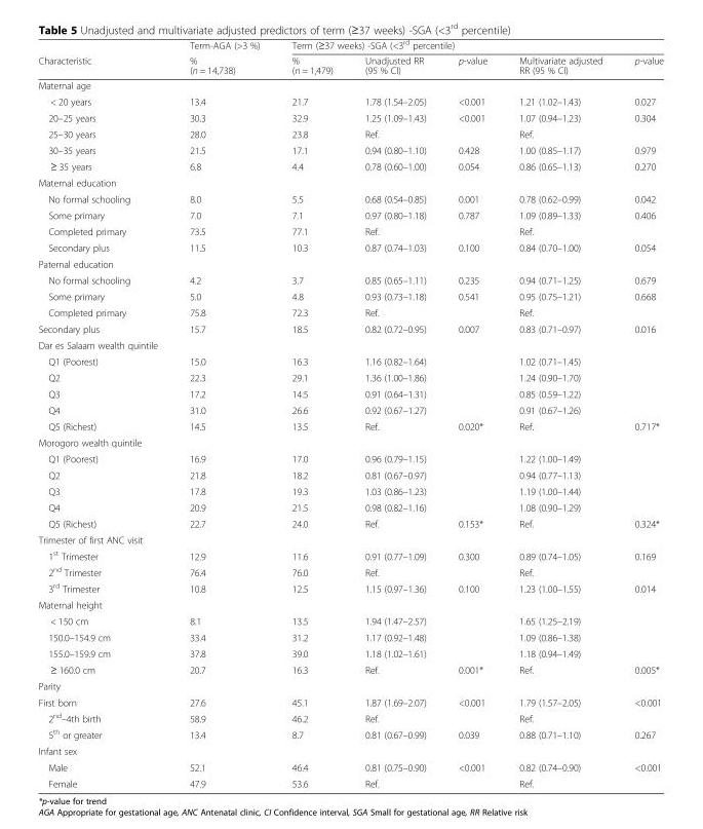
<table><thead><tr><td rowspan="2">Characteristic</td><td rowspan="2">Term-AGA (&gt;3 %) % (n = 14,738)</td><td colspan="5">Term (≥37 weeks) -SGA (&lt;3<sup>rd</sup> percentile)</td></tr><tr><td>% (n = 1,479)</td><td>Unadjusted RR (95 % CI)</td><td>p-value</td><td>Multivariate adjusted RR (95 % CI)</td><td>p-value</td></tr></thead><tbody><tr><td colspan="7">Maternal age</td></tr><tr><td>&lt; 20 years</td><td>13.4</td><td>21.7</td><td>1.78 (1.54–2.05)</td><td>&lt;0.001</td><td>1.21 (1.02–1.43)</td><td>0.027</td></tr><tr><td>20–25 years</td><td>30.3</td><td>32.9</td><td>1.25 (1.09–1.43)</td><td>&lt;0.001</td><td>1.07 (0.94–1.23)</td><td>0.304</td></tr><tr><td>25–30 years</td><td>28.0</td><td>23.8</td><td>Ref.</td><td></td><td>Ref.</td><td></td></tr><tr><td>30–35 years</td><td>21.5</td><td>17.1</td><td>0.94 (0.80–1.10)</td><td>0.428</td><td>1.00 (0.85–1.17)</td><td>0.979</td></tr><tr><td>≥ 35 years</td><td>6.8</td><td>4.4</td><td>0.78 (0.60–1.00)</td><td>0.054</td><td>0.86 (0.65–1.13)</td><td>0.270</td></tr><tr><td colspan="7">Maternal education</td></tr><tr><td>No formal schooling</td><td>8.0</td><td>5.5</td><td>0.68 (0.54–0.85)</td><td>0.001</td><td>0.78 (0.62–0.99)</td><td>0.042</td></tr><tr><td>Some primary</td><td>7.0</td><td>7.1</td><td>0.97 (0.80–1.18)</td><td>0.787</td><td>1.09 (0.89–1.33)</td><td>0.406</td></tr><tr><td>Completed primary</td><td>73.5</td><td>77.1</td><td>Ref.</td><td></td><td>Ref.</td><td></td></tr><tr><td>Secondary plus</td><td>11.5</td><td>10.3</td><td>0.87 (0.74–1.03)</td><td>0.100</td><td>0.84 (0.70–1.00)</td><td>0.054</td></tr><tr><td colspan="7">Paternal education</td></tr><tr><td>No formal schooling</td><td>4.2</td><td>3.7</td><td>0.85 (0.65–1.11)</td><td>0.235</td><td>0.94 (0.71–1.25)</td><td>0.679</td></tr><tr><td>Some primary</td><td>5.0</td><td>4.8</td><td>0.93 (0.73–1.18)</td><td>0.541</td><td>0.95 (0.75–1.21)</td><td>0.668</td></tr><tr><td>Completed primary</td><td>75.8</td><td>72.3</td><td>Ref.</td><td></td><td>Ref.</td><td></td></tr><tr><td>Secondary plus</td><td>15.7</td><td>18.5</td><td>0.82 (0.72–0.95)</td><td>0.007</td><td>0.83 (0.71–0.97)</td><td>0.016</td></tr><tr><td colspan="7">Dar es Salaam wealth quintile</td></tr><tr><td>Q1 (Poorest)</td><td>15.0</td><td>16.3</td><td>1.16 (0.82–1.64)</td><td></td><td>1.02 (0.71–1.45)</td><td></td></tr><tr><td>Q2</td><td>22.3</td><td>29.1</td><td>1.36 (1.00–1.86)</td><td></td><td>1.24 (0.90–1.70)</td><td></td></tr><tr><td>Q3</td><td>17.2</td><td>14.5</td><td>0.91 (0.64–1.31)</td><td></td><td>0.85 (0.59–1.22)</td><td></td></tr><tr><td>Q4</td><td>31.0</td><td>26.6</td><td>0.92 (0.67–1.27)</td><td></td><td>0.91 (0.67–1.26)</td><td></td></tr><tr><td>Q5 (Richest)</td><td>14.5</td><td>13.5</td><td>Ref.</td><td>0.020*</td><td>Ref.</td><td>0.717*</td></tr><tr><td colspan="7">Morogoro wealth quintile</td></tr><tr><td>Q1 (Poorest)</td><td>16.9</td><td>17.0</td><td>0.96 (0.79–1.15)</td><td></td><td>1.22 (1.00–1.49)</td><td></td></tr><tr><td>Q2</td><td>21.8</td><td>18.2</td><td>0.81 (0.67–0.97)</td><td></td><td>0.94 (0.77–1.13)</td><td></td></tr><tr><td>Q3</td><td>17.8</td><td>19.3</td><td>1.03 (0.86–1.23)</td><td></td><td>1.19 (1.00–1.44)</td><td></td></tr><tr><td>Q4</td><td>20.9</td><td>21.5</td><td>0.98 (0.82–1.16)</td><td></td><td>1.08 (0.90–1.29)</td><td></td></tr><tr><td>Q5 (Richest)</td><td>22.7</td><td>24.0</td><td>Ref.</td><td>0.153*</td><td>Ref.</td><td>0.324*</td></tr><tr><td colspan="7">Trimester of first ANC visit</td></tr><tr><td>1<sup>st</sup> Trimester</td><td>12.9</td><td>11.6</td><td>0.91 (0.77–1.09)</td><td>0.300</td><td>0.89 (0.74–1.05)</td><td>0.169</td></tr><tr><td>2<sup>nd</sup> Trimester</td><td>76.4</td><td>76.0</td><td>Ref.</td><td></td><td>Ref.</td><td></td></tr><tr><td>3<sup>rd</sup> Trimester</td><td>10.8</td><td>12.5</td><td>1.15 (0.97–1.36)</td><td>0.100</td><td>1.23 (1.00–1.55)</td><td>0.014</td></tr><tr><td colspan="7">Maternal height</td></tr><tr><td>&lt; 150 cm</td><td>8.1</td><td>13.5</td><td>1.94 (1.47–2.57)</td><td></td><td>1.65 (1.25–2.19)</td><td></td></tr><tr><td>150.0–154.9 cm</td><td>33.4</td><td>31.2</td><td>1.17 (0.92–1.48)</td><td></td><td>1.09 (0.86–1.38)</td><td></td></tr><tr><td>155.0–159.9 cm</td><td>37.8</td><td>39.0</td><td>1.18 (1.02–1.61)</td><td></td><td>1.18 (0.94–1.49)</td><td></td></tr><tr><td>≥ 160.0 cm</td><td>20.7</td><td>16.3</td><td>Ref.</td><td>0.001*</td><td>Ref.</td><td>0.005*</td></tr><tr><td colspan="7">Parity</td></tr><tr><td>First born</td><td>27.6</td><td>45.1</td><td>1.87 (1.69–2.07)</td><td>&lt;0.001</td><td>1.79 (1.57–2.05)</td><td>&lt;0.001</td></tr><tr><td>2<sup>nd</sup>–4th birth</td><td>58.9</td><td>46.2</td><td>Ref.</td><td></td><td>Ref.</td><td></td></tr><tr><td>5<sup>th</sup> or greater</td><td>13.4</td><td>8.7</td><td>0.81 (0.67–0.99)</td><td>0.039</td><td>0.88 (0.71–1.10)</td><td>0.267</td></tr><tr><td colspan="7">Infant sex</td></tr><tr><td>Male</td><td>52.1</td><td>46.4</td><td>0.81 (0.75–0.90)</td><td>&lt;0.001</td><td>0.82 (0.74–0.90)</td><td>&lt;0.001</td></tr><tr><td>Female</td><td>47.9</td><td>53.6</td><td>Ref.</td><td></td><td>Ref.</td><td></td></tr></tbody></table>